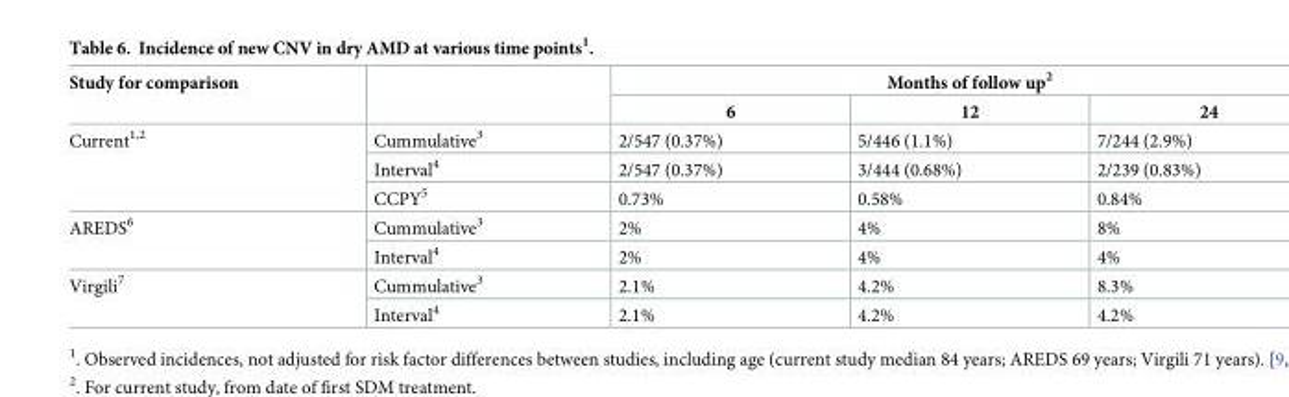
<table><thead><tr><td rowspan="2">Study for comparison</td><td rowspan="2"></td><td colspan="3">Months of follow up<sup>2</sup></td></tr><tr><td>6</td><td>12</td><td>24</td></tr></thead><tbody><tr><td rowspan="3">Current<sup>1,2</sup></td><td>Cummulative<sup>3</sup></td><td>2/547 (0.37%)</td><td>5/446 (1.1%)</td><td>7/244 (2.9%)</td></tr><tr><td>Interval<sup>4</sup></td><td>2/547 (0.37%)</td><td>3/444 (0.68%)</td><td>2/239 (0.83%)</td></tr><tr><td>CCPY<sup>5</sup></td><td>0.73%</td><td>0.58%</td><td>0.84%</td></tr><tr><td rowspan="2">AREDS<sup>6</sup></td><td>Cummulative<sup>3</sup></td><td>2%</td><td>4%</td><td>8%</td></tr><tr><td>Interval<sup>4</sup></td><td>2%</td><td>4%</td><td>4%</td></tr><tr><td rowspan="2">Virgili<sup>7</sup></td><td>Cummulative<sup>3</sup></td><td>2.1%</td><td>4.2%</td><td>8.3%</td></tr><tr><td>Interval<sup>4</sup></td><td>2.1%</td><td>4.2%</td><td>4.2%</td></tr></tbody></table>